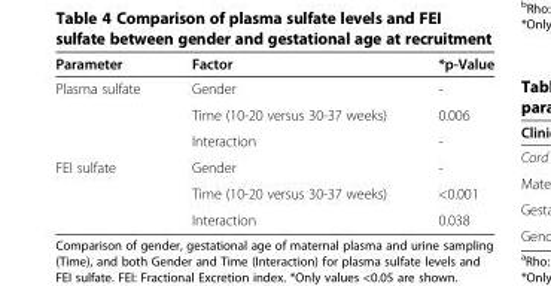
<table><thead><tr><td>Parameter</td><td>Factor</td><td>*p-Value</td></tr></thead><tbody><tr><td rowspan="3">Plasma sulfate</td><td>Gender</td><td>-</td></tr><tr><td>Time (10-20 versus 30-37 weeks)</td><td>0.006</td></tr><tr><td>Interaction</td><td>-</td></tr><tr><td rowspan="3">FEI sulfate</td><td>Gender</td><td>-</td></tr><tr><td>Time (10-20 versus 30-37 weeks)</td><td>&lt;0.001</td></tr><tr><td>Interaction</td><td>0.038</td></tr></tbody></table>